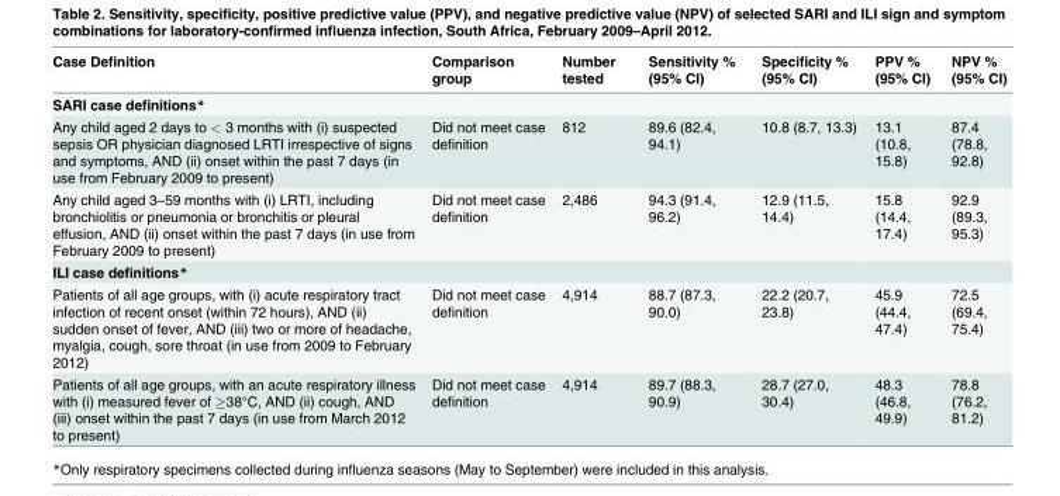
<table><thead><tr><td>Case Definition</td><td>Comparison group</td><td>Number tested</td><td>Sensitivity % (95% CI)</td><td>Specificity % (95% CI)</td><td>PPV % (95% CI)</td><td>NPV % (95% CI)</td></tr></thead><tbody><tr><td colspan="7">SARI case definitions*</td></tr><tr><td>Any child aged 2 days to &lt; 3 months with (i) suspected sepsis OR physician diagnosed LRTI irrespective of signs and symptoms, AND (ii) onset within the past 7 days (in use from February 2009 to present)</td><td>Did not meet case definition</td><td>812</td><td>89.6 (82.4, 94.1)</td><td>10.8 (8.7, 13.3)</td><td>13.1 (10.8, 15.8)</td><td>87.4 (78.8, 92.8)</td></tr><tr><td>Any child aged 3–59 months with (i) LRTI, including bronchiolitis or pneumonia or bronchitis or pleural effusion, AND (ii) onset within the past 7 days (in use from February 2009 to present)</td><td>Did not meet case definition</td><td>2,486</td><td>94.3 (91.4, 96.2)</td><td>12.9 (11.5, 14.4)</td><td>15.8 (14.4, 17.4)</td><td>92.9 (89.3, 95.3)</td></tr><tr><td colspan="7">ILI case definitions*</td></tr><tr><td>Patients of all age groups, with (i) acute respiratory tract infection of recent onset (within 72 hours), AND (ii) sudden onset of fever, AND (iii) two or more of headache, myalgia, cough, sore throat (in use from 2009 to February 2012)</td><td>Did not meet case definition</td><td>4,914</td><td>88.7 (87.3, 90.0)</td><td>22.2 (20.7, 23.8)</td><td>45.9 (44.4, 47.4)</td><td>72.5 (69.4, 75.4)</td></tr><tr><td>Patients of all age groups, with an acute respiratory illness with (i) measured fever of ≥38°C, AND (ii) cough, AND (iii) onset within the past 7 days (in use from March 2012 to present)</td><td>Did not meet case definition</td><td>4,914</td><td>89.7 (88.3, 90.9)</td><td>28.7 (27.0, 30.4)</td><td>48.3 (46.8, 49.9)</td><td>78.8 (76.2, 81.2)</td></tr></tbody></table>